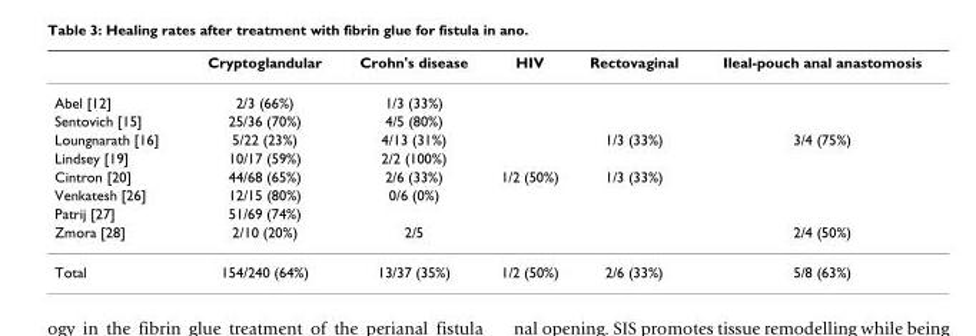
<table><thead><tr><td></td><td>Cryptoglandular</td><td>Crohn&#x27;s disease</td><td>HIV</td><td>Rectovaginal</td><td>Ileal-pouch anal anastomosis</td></tr></thead><tbody><tr><td>Abel [12]</td><td>2/3 (66%)</td><td>1/3 (33%)</td><td></td><td></td><td></td></tr><tr><td>Sentovich [15]</td><td>25/36 (70%)</td><td>4/5 (80%)</td><td></td><td></td><td></td></tr><tr><td>Loungnarath [16]</td><td>5/22 (23%)</td><td>4/13 (31%)</td><td></td><td>1/3 (33%)</td><td>3/4 (75%)</td></tr><tr><td>Lindsey [19]</td><td>10/17 (59%)</td><td>2/2 (100%)</td><td></td><td></td><td></td></tr><tr><td>Cintron [20]</td><td>44/68 (65%)</td><td>2/6 (33%)</td><td>1/2 (50%)</td><td>1/3 (33%)</td><td></td></tr><tr><td>Venkatesh [26]</td><td>12/15 (80%)</td><td>0/6 (0%)</td><td></td><td></td><td></td></tr><tr><td>Patrij [27]</td><td>51/69 (74%)</td><td></td><td></td><td></td><td></td></tr><tr><td>Zmora [28]</td><td>2/10 (20%)</td><td>2/5</td><td></td><td></td><td>2/4 (50%)</td></tr><tr><td>Total</td><td>154/240 (64%)</td><td>13/37 (35%)</td><td>1/2 (50%)</td><td>2/6 (33%)</td><td>5/8 (63%)</td></tr></tbody></table>